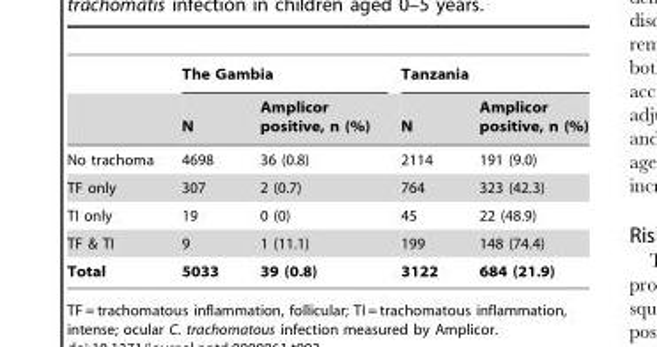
<table><thead><tr><td rowspan="2"></td><td colspan="2">The Gambia</td><td colspan="2">Tanzania</td></tr><tr><td>N</td><td>Amplicor positive, n (%)</td><td>N</td><td>Amplicor positive, n (%)</td></tr></thead><tbody><tr><td>No trachoma</td><td>4698</td><td>36 (0.8)</td><td>2114</td><td>191 (9.0)</td></tr><tr><td>TF only</td><td>307</td><td>2 (0.7)</td><td>764</td><td>323 (42.3)</td></tr><tr><td>TI only</td><td>19</td><td>0 (0)</td><td>45</td><td>22 (48.9)</td></tr><tr><td>TF &amp; TI</td><td>9</td><td>1 (11.1)</td><td>199</td><td>148 (74.4)</td></tr><tr><td>Total</td><td>5033</td><td>39 (0.8)</td><td>3122</td><td>684 (21.9)</td></tr></tbody></table>